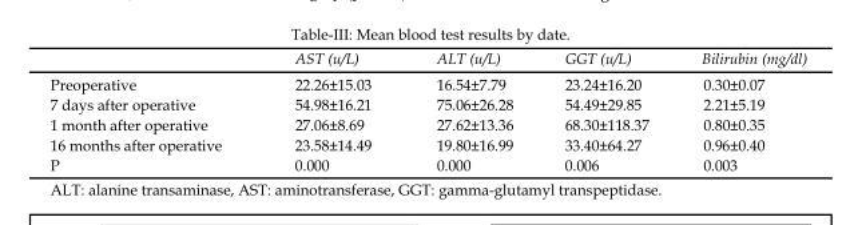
<table><thead><tr><td></td><td>AST (u/L)</td><td>ALT (u/L)</td><td>GGT (u/L)</td><td>Bilirubin (mg/dl)</td></tr></thead><tbody><tr><td>Preoperative</td><td>22.26±15.03</td><td>16.54±7.79</td><td>23.24±16.20</td><td>0.30±0.07</td></tr><tr><td>7 days after operative</td><td>54.98±16.21</td><td>75.06±26.28</td><td>54.49±29.85</td><td>2.21±5.19</td></tr><tr><td>1 month after operative</td><td>27.06±8.69</td><td>27.62±13.36</td><td>68.30±118.37</td><td>0.80±0.35</td></tr><tr><td>16 months after operative</td><td>23.58±14.49</td><td>19.80±16.99</td><td>33.40±64.27</td><td>0.96±0.40</td></tr><tr><td>P</td><td>0.000</td><td>0.000</td><td>0.006</td><td>0.003</td></tr></tbody></table>